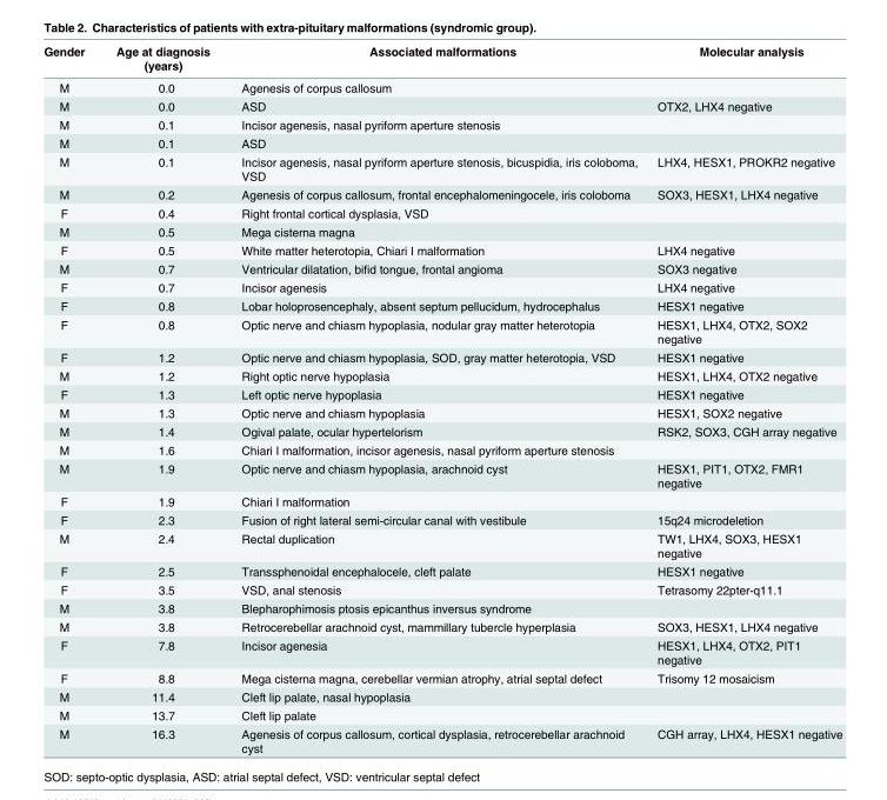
<table><thead><tr><td>Gender</td><td>Age at diagnosis (years)</td><td>Associated malformations</td><td>Molecular analysis</td></tr></thead><tbody><tr><td>M</td><td>0.0</td><td>Agenesis of corpus callosum</td><td></td></tr><tr><td>M</td><td>0.0</td><td>ASD</td><td>OTX2, LHX4 negative</td></tr><tr><td>M</td><td>0.1</td><td>Incisor agenesis, nasal pyriform aperture stenosis</td><td></td></tr><tr><td>M</td><td>0.1</td><td>ASD</td><td></td></tr><tr><td>M</td><td>0.1</td><td>Incisor agenesis, nasal pyriform aperture stenosis, bicuspidia, iris coloboma, VSD</td><td>LHX4, HESX1, PROKR2 negative</td></tr><tr><td>M</td><td>0.2</td><td>Agenesis of corpus callosum, frontal encephalomeningocele, iris coloboma</td><td>SOX3, HESX1, LHX4 negative</td></tr><tr><td>F</td><td>0.4</td><td>Right frontal cortical dysplasia, VSD</td><td></td></tr><tr><td>M</td><td>0.5</td><td>Mega cisterna magna</td><td></td></tr><tr><td>F</td><td>0.5</td><td>White matter heterotopia, Chiari I malformation</td><td>LHX4 negative</td></tr><tr><td>M</td><td>0.7</td><td>Ventricular dilatation, bifid tongue, frontal angioma</td><td>SOX3 negative</td></tr><tr><td>F</td><td>0.7</td><td>Incisor agenesis</td><td>LHX4 negative</td></tr><tr><td>F</td><td>0.8</td><td>Lobar holoprosencephaly, absent septum pellucidum, hydrocephalus</td><td>HESX1 negative</td></tr><tr><td>F</td><td>0.8</td><td>Optic nerve and chiasm hypoplasia, nodular gray matter heterotopia</td><td>HESX1, LHX4, OTX2, SOX2 negative</td></tr><tr><td>F</td><td>1.2</td><td>Optic nerve and chiasm hypoplasia, SOD, gray matter heterotopia, VSD</td><td>HESX1 negative</td></tr><tr><td>M</td><td>1.2</td><td>Right optic nerve hypoplasia</td><td>HESX1, LHX4, OTX2 negative</td></tr><tr><td>F</td><td>1.3</td><td>Left optic nerve hypoplasia</td><td>HESX1 negative</td></tr><tr><td>M</td><td>1.3</td><td>Optic nerve and chiasm hypoplasia</td><td>HESX1, SOX2 negative</td></tr><tr><td>M</td><td>1.4</td><td>Ogival palate, ocular hypertelorism</td><td>RSK2, SOX3, CGH array negative</td></tr><tr><td>M</td><td>1.6</td><td>Chiari I malformation, incisor agenesis, nasal pyriform aperture stenosis</td><td></td></tr><tr><td>M</td><td>1.9</td><td>Optic nerve and chiasm hypoplasia, arachnoid cyst</td><td>HESX1, PIT1, OTX2, FMR1 negative</td></tr><tr><td>F</td><td>1.9</td><td>Chiari I malformation</td><td></td></tr><tr><td>F</td><td>2.3</td><td>Fusion of right lateral semi-circular canal with vestibule</td><td>15q24 microdeletion</td></tr><tr><td>M</td><td>2.4</td><td>Rectal duplication</td><td>TW1, LHX4, SOX3, HESX1 negative</td></tr><tr><td>F</td><td>2.5</td><td>Transsphenoidal encephalocele, cleft palate</td><td>HESX1 negative</td></tr><tr><td>F</td><td>3.5</td><td>VSD, anal stenosis</td><td>Tetrasomy 22pter-q11.1</td></tr><tr><td>M</td><td>3.8</td><td>Blepharophimosis ptosis epicanthus inversus syndrome</td><td></td></tr><tr><td>M</td><td>3.8</td><td>Retrocerebellar arachnoid cyst, mammillary tubercle hyperplasia</td><td>SOX3, HESX1, LHX4 negative</td></tr><tr><td>F</td><td>7.8</td><td>Incisor agenesia</td><td>HESX1, LHX4, OTX2, PIT1 negative</td></tr><tr><td>F</td><td>8.8</td><td>Mega cisterna magna, cerebellar vermian atrophy, atrial septal defect</td><td>Trisomy 12 mosaicism</td></tr><tr><td>M</td><td>11.4</td><td>Cleft lip palate, nasal hypoplasia</td><td></td></tr><tr><td>M</td><td>13.7</td><td>Cleft lip palate</td><td></td></tr><tr><td>M</td><td>16.3</td><td>Agenesis of corpus callosum, cortical dysplasia, retrocerebellar arachnoid cyst</td><td>CGH array, LHX4, HESX1 negative</td></tr></tbody></table>